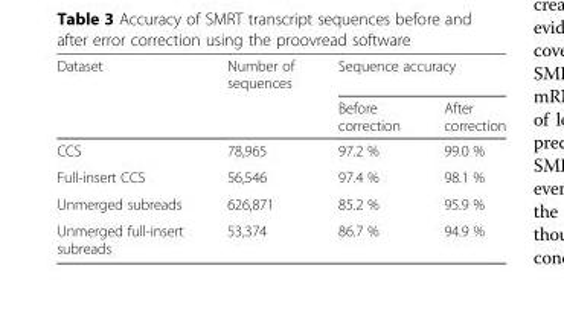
<table><thead><tr><td rowspan="2">Dataset</td><td rowspan="2">Number of sequences</td><td colspan="2">Sequence accuracy</td></tr><tr><td>Before correction</td><td>After correction</td></tr></thead><tbody><tr><td>CCS</td><td>78,965</td><td>97.2 %</td><td>99.0 %</td></tr><tr><td>Full-insert CCS</td><td>56,546</td><td>97.4 %</td><td>98.1 %</td></tr><tr><td>Unmerged subreads</td><td>626,871</td><td>85.2 %</td><td>95.9 %</td></tr><tr><td>Unmerged full-insert subreads</td><td>53,374</td><td>86.7 %</td><td>94.9 %</td></tr></tbody></table>